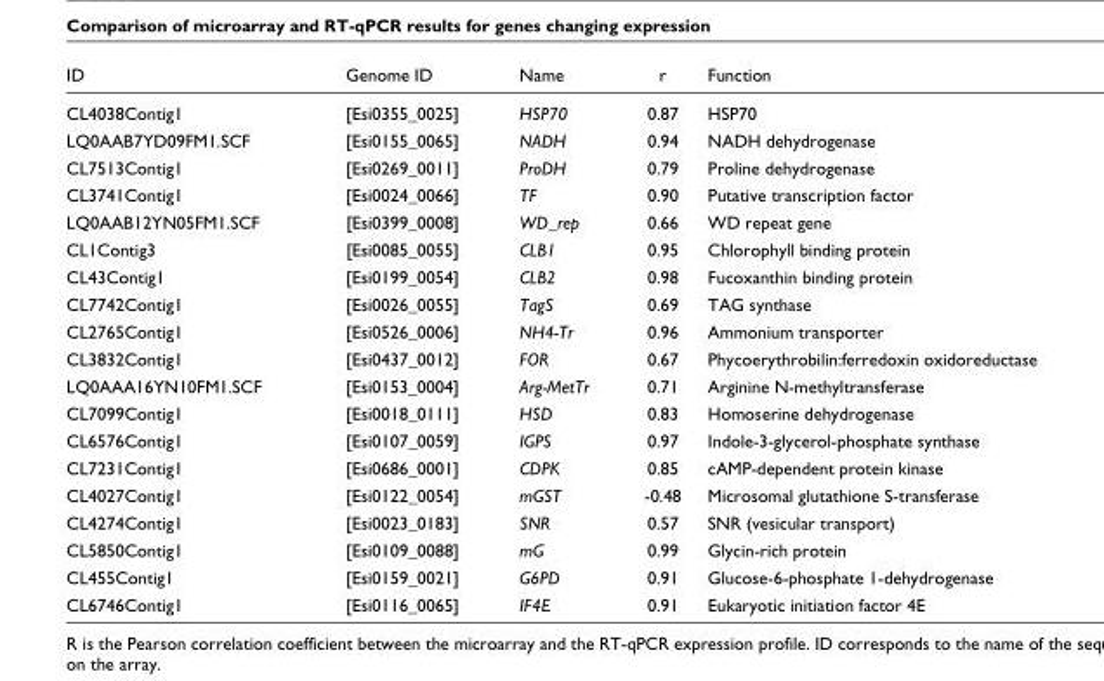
<table><thead><tr><td>ID</td><td>Genome ID</td><td>Name</td><td>r</td><td>Function</td></tr></thead><tbody><tr><td>CL4038Contig1</td><td>[Esi0355_0025]</td><td>HSP70</td><td>0.87</td><td>HSP70</td></tr><tr><td>LQ0AAB7YD09FM1.SCF</td><td>[Esi0155_0065]</td><td>NADH</td><td>0.94</td><td>NADH dehydrogenase</td></tr><tr><td>CL7513Contig1</td><td>[Esi0269_0011]</td><td>ProDH</td><td>0.79</td><td>Proline dehydrogenase</td></tr><tr><td>CL3741Contig1</td><td>[Esi0024_0066]</td><td>TF</td><td>0.90</td><td>Putative transcription factor</td></tr><tr><td>LQ0AAB12YN05FM1.SCF</td><td>[Esi0399_0008]</td><td>WD_rep</td><td>0.66</td><td>WD repeat gene</td></tr><tr><td>CL1Contig3</td><td>[Esi0085_0055]</td><td>CLB1</td><td>0.95</td><td>Chlorophyll binding protein</td></tr><tr><td>CL43Contig1</td><td>[Esi0199_0054]</td><td>CLB2</td><td>0.98</td><td>Fucoxanthin binding protein</td></tr><tr><td>CL7742Contig1</td><td>[Esi0026_0055]</td><td>TagS</td><td>0.69</td><td>TAG synthase</td></tr><tr><td>CL2765Contig1</td><td>[Esi0526_0006]</td><td>NH4-Tr</td><td>0.96</td><td>Ammonium transporter</td></tr><tr><td>CL3832Contig1</td><td>[Esi0437_0012]</td><td>FOR</td><td>0.67</td><td>Phycoerythrobilin:ferredoxin oxidoreductase</td></tr><tr><td>LQ0AAA16YN10FM1.SCF</td><td>[Esi0153_0004]</td><td>Arg-MetTr</td><td>0.71</td><td>Arginine N-methyltransferase</td></tr><tr><td>CL7099Contig1</td><td>[Esi0018_0111]</td><td>HSD</td><td>0.83</td><td>Homoserine dehydrogenase</td></tr><tr><td>CL6576Contig1</td><td>[Esi0107_0059]</td><td>IGPS</td><td>0.97</td><td>Indole-3-glycerol-phosphate synthase</td></tr><tr><td>CL7231Contig1</td><td>[Esi0686_0001]</td><td>CDPK</td><td>0.85</td><td>cAMP-dependent protein kinase</td></tr><tr><td>CL4027Contig1</td><td>[Esi0122_0054]</td><td>mGST</td><td>-0.48</td><td>Microsomal glutathione S-transferase</td></tr><tr><td>CL4274Contig1</td><td>[Esi0023_0183]</td><td>SNR</td><td>0.57</td><td>SNR (vesicular transport)</td></tr><tr><td>CL5850Contig1</td><td>[Esi0109_0088]</td><td>mG</td><td>0.99</td><td>Glycin-rich protein</td></tr><tr><td>CL455Contig1</td><td>[Esi0159_0021]</td><td>G6PD</td><td>0.91</td><td>Glucose-6-phosphate 1-dehydrogenase</td></tr><tr><td>CL6746Contig1</td><td>[Esi0116_0065]</td><td>IF4E</td><td>0.91</td><td>Eukaryotic initiation factor 4E</td></tr></tbody></table>